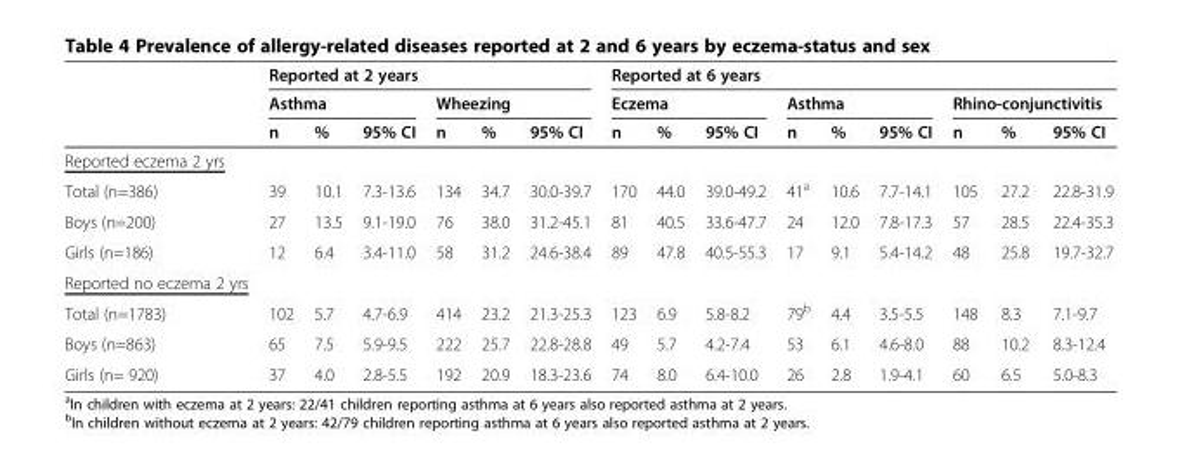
<table><thead><tr><td rowspan="3"></td><td colspan="6">Reported at 2 years</td><td colspan="9">Reported at 6 years</td></tr><tr><td colspan="3">Asthma</td><td colspan="3">Wheezing</td><td colspan="3">Eczema</td><td colspan="3">Asthma</td><td colspan="3">Rhino-conjunctivitis</td></tr><tr><td>n</td><td>%</td><td>95% CI</td><td>n</td><td>%</td><td>95% CI</td><td>n</td><td>%</td><td>95% CI</td><td>n</td><td>%</td><td>95% CI</td><td>n</td><td>%</td><td>95% CI</td></tr></thead><tbody><tr><td colspan="16">Reported eczema 2 yrs</td></tr><tr><td>Total (n=386)</td><td>39</td><td>10.1</td><td>7.3-13.6</td><td>134</td><td>34.7</td><td>30.0-39.7</td><td>170</td><td>44.0</td><td>39.0-49.2</td><td>41<sup>a</sup></td><td>10.6</td><td>7.7-14.1</td><td>105</td><td>27.2</td><td>22.8-31.9</td></tr><tr><td>Boys (n=200)</td><td>27</td><td>13.5</td><td>9.1-19.0</td><td>76</td><td>38.0</td><td>31.2-45.1</td><td>81</td><td>40.5</td><td>33.6-47.7</td><td>24</td><td>12.0</td><td>7.8-17.3</td><td>57</td><td>28.5</td><td>22.4-35.3</td></tr><tr><td>Girls (n=186)</td><td>12</td><td>6.4</td><td>3.4-11.0</td><td>58</td><td>31.2</td><td>24.6-38.4</td><td>89</td><td>47.8</td><td>40.5-55.3</td><td>17</td><td>9.1</td><td>5.4-14.2</td><td>48</td><td>25.8</td><td>19.7-32.7</td></tr><tr><td colspan="16">Reported no eczema 2 yrs</td></tr><tr><td>Total (n=1783)</td><td>102</td><td>5.7</td><td>4.7-6.9</td><td>414</td><td>23.2</td><td>21.3-25.3</td><td>123</td><td>6.9</td><td>5.8-8.2</td><td>79<sup>b</sup></td><td>4.4</td><td>3.5-5.5</td><td>148</td><td>8.3</td><td>7.1-9.7</td></tr><tr><td>Boys (n=863)</td><td>65</td><td>7.5</td><td>5.9-9.5</td><td>222</td><td>25.7</td><td>22.8-28.8</td><td>49</td><td>5.7</td><td>4.2-7.4</td><td>53</td><td>6.1</td><td>4.6-8.0</td><td>88</td><td>10.2</td><td>8.3-12.4</td></tr><tr><td>Girls (n= 920)</td><td>37</td><td>4.0</td><td>2.8-5.5</td><td>192</td><td>20.9</td><td>18.3-23.6</td><td>74</td><td>8.0</td><td>6.4-10.0</td><td>26</td><td>2.8</td><td>1.9-4.1</td><td>60</td><td>6.5</td><td>5.0-8.3</td></tr></tbody></table>